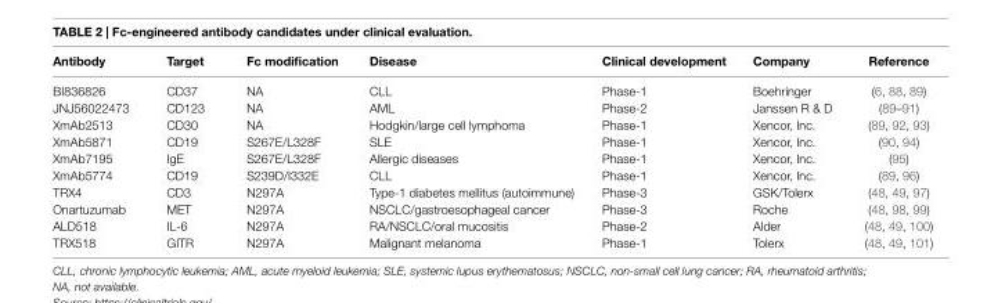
<table><thead><tr><td>Antibody</td><td>Target</td><td>Fc modification</td><td>Disease</td><td>Clinical development</td><td>Company</td><td>Reference</td></tr></thead><tbody><tr><td>BI836826</td><td>CD37</td><td>NA</td><td>CLL</td><td>Phase-1</td><td>Boehringer</td><td>(6, 88, 89)</td></tr><tr><td>JNJ56022473</td><td>CD123</td><td>NA</td><td>AML</td><td>Phase-2</td><td>Janssen R &amp; D</td><td>(89–91)</td></tr><tr><td>XmAb2513</td><td>CD30</td><td>NA</td><td>Hodgkin/large cell lymphoma</td><td>Phase-1</td><td>Xencor, Inc.</td><td>(89, 92, 93)</td></tr><tr><td>XmAb5871</td><td>CD19</td><td>S267E/L328F</td><td>SLE</td><td>Phase-1</td><td>Xencor, Inc.</td><td>(90, 94)</td></tr><tr><td>XmAb7195</td><td>IgE</td><td>S267E/L328F</td><td>Allergic diseases</td><td>Phase-1</td><td>Xencor, Inc.</td><td>(95)</td></tr><tr><td>XmAb5774</td><td>CD19</td><td>S239D/I332E</td><td>CLL</td><td>Phase-1</td><td>Xencor, Inc.</td><td>(89, 96)</td></tr><tr><td>TRX4</td><td>CD3</td><td>N297A</td><td>Type-1 diabetes mellitus (autoimmune)</td><td>Phase-3</td><td>GSK/Tolerx</td><td>(48, 49, 97)</td></tr><tr><td>Onartuzumab</td><td>MET</td><td>N297A</td><td>NSCLC/gastroesophageal cancer</td><td>Phase-3</td><td>Roche</td><td>(48, 98, 99)</td></tr><tr><td>ALD518</td><td>IL-6</td><td>N297A</td><td>RA/NSCLC/oral mucositis</td><td>Phase-2</td><td>Alder</td><td>(48, 49, 100)</td></tr><tr><td>TRX518</td><td>GITR</td><td>N297A</td><td>Malignant melanoma</td><td>Phase-1</td><td>Tolerx</td><td>(48, 49, 101)</td></tr></tbody></table>